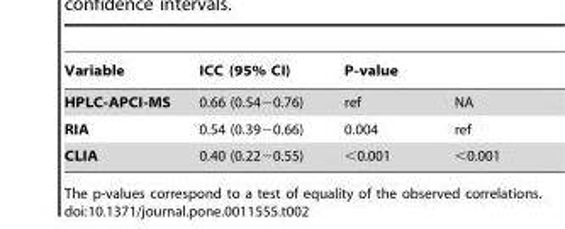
<table><thead><tr><td rowspan="2">Variable HPLC-APCI-MS</td><td rowspan="2">ICC (95% CI) 0.66 (0.54−0.76)</td><td colspan="2">P-value</td></tr><tr><td>ref</td><td>NA</td></tr></thead><tbody><tr><td>RIA</td><td>0.54 (0.39−0.66)</td><td>0.004</td><td>ref</td></tr><tr><td>CLIA</td><td>0.40 (0.22−0.55)</td><td>&lt;0.001</td><td>&lt;0.001</td></tr></tbody></table>